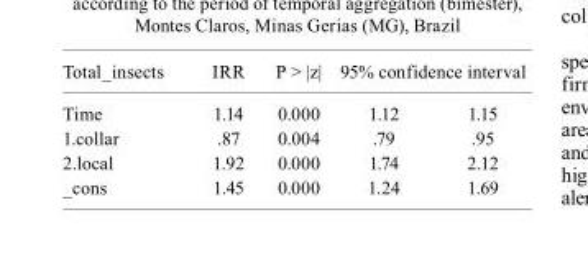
<table><thead><tr><td rowspan="2">Total_insects Time</td><td rowspan="2">IRR 1.14</td><td rowspan="2">P &gt; |z| 0.000</td><td colspan="2">95% confidence interval</td></tr><tr><td>1.12</td><td>1.15</td></tr></thead><tbody><tr><td>1.collar</td><td>.87</td><td>0.004</td><td>.79</td><td>.95</td></tr><tr><td>2.local</td><td>1.92</td><td>0.000</td><td>1.74</td><td>2.12</td></tr><tr><td>_cons</td><td>1.45</td><td>0.000</td><td>1.24</td><td>1.69</td></tr></tbody></table>